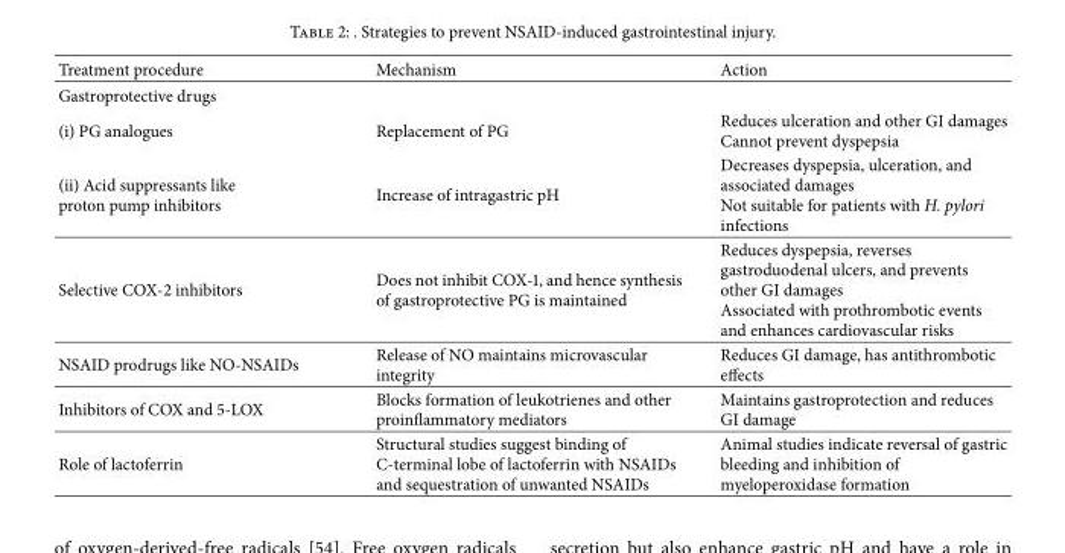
<table><thead><tr><td>Treatment procedure</td><td>Mechanism</td><td>Action</td></tr></thead><tbody><tr><td colspan="3">Gastroprotective drugs</td></tr><tr><td>(i) PG analogues</td><td>Replacement of PG</td><td>Reduces ulceration and other GI damages Cannot prevent dyspepsia</td></tr><tr><td>(ii) Acid suppressants like proton pump inhibitors</td><td>Increase of intragastric pH</td><td>Decreases dyspepsia, ulceration, and associated damages Not suitable for patients with H. pylori infections</td></tr><tr><td>Selective COX-2 inhibitors</td><td>Does not inhibit COX-1, and hence synthesis of gastroprotective PG is maintained</td><td>Reduces dyspepsia, reverses gastroduodenal ulcers, and prevents other GI damages Associated with prothrombotic events and enhances cardiovascular risks</td></tr><tr><td>NSAID prodrugs like NO-NSAIDs</td><td>Release of NO maintains microvascular integrity</td><td>Reduces GI damage, has antithrombotic effects</td></tr><tr><td>Inhibitors of COX and 5-LOX</td><td>Blocks formation of leukotrienes and other proinflammatory mediators</td><td>Maintains gastroprotection and reduces GI damage</td></tr><tr><td>Role of lactoferrin</td><td>Structural studies suggest binding of C-terminal lobe of lactoferrin with NSAIDs and sequestration of unwanted NSAIDs</td><td>Animal studies indicate reversal of gastric bleeding and inhibition of myeloperoxidase formation</td></tr></tbody></table>